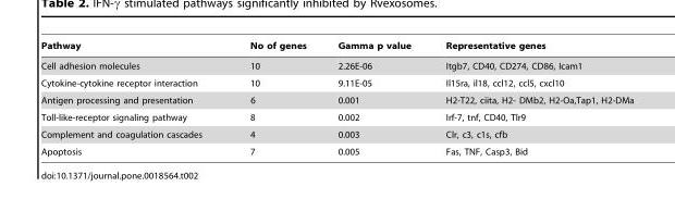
<table><thead><tr><td>Pathway</td><td>No of genes</td><td>Gamma p value</td><td>Representative genes</td></tr></thead><tbody><tr><td>Cell adhesion molecules</td><td>10</td><td>2.26E-06</td><td>Itgb7, CD40, CD274, CD86, Icam1</td></tr><tr><td>Cytokine-cytokine receptor interaction</td><td>10</td><td>9.11E-05</td><td>Il15ra, il18, ccl12, ccl5, cxcl10</td></tr><tr><td>Antigen processing and presentation</td><td>6</td><td>0.001</td><td>H2-T22, ciita, H2- DMb2, H2-Oa,Tap1, H2-DMa</td></tr><tr><td>Toll-like-receptor signaling pathway</td><td>8</td><td>0.002</td><td>Irf-7, tnf, CD40, Tlr9</td></tr><tr><td>Complement and coagulation cascades</td><td>4</td><td>0.003</td><td>Clr, c3, c1s, cfb</td></tr><tr><td>Apoptosis</td><td>7</td><td>0.005</td><td>Fas, TNF, Casp3, Bid</td></tr></tbody></table>